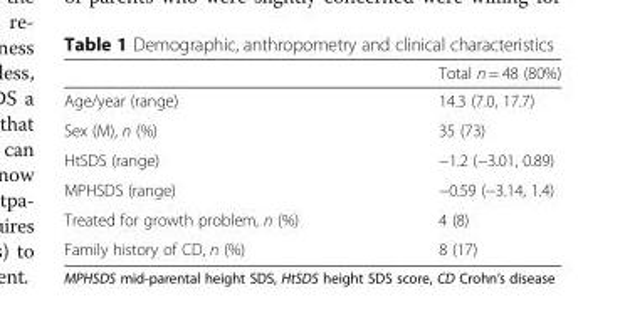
<table><thead><tr><td></td><td>Total n = 48 (80%)</td></tr></thead><tbody><tr><td>Age/year (range)</td><td>14.3 (7.0, 17.7)</td></tr><tr><td>Sex (M), n (%)</td><td>35 (73)</td></tr><tr><td>HtSDS (range)</td><td>−1.2 (−3.01, 0.89)</td></tr><tr><td>MPHSDS (range)</td><td>−0.59 (−3.14, 1.4)</td></tr><tr><td>Treated for growth problem, n (%)</td><td>4 (8)</td></tr><tr><td>Family history of CD, n (%)</td><td>8 (17)</td></tr></tbody></table>